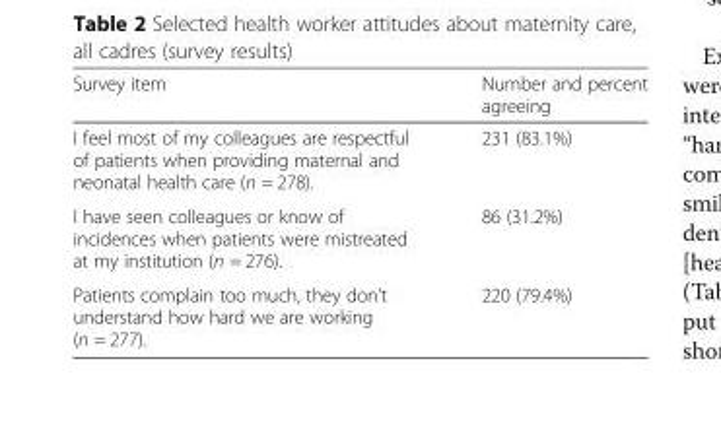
<table><thead><tr><td>Survey item</td><td>Number and percent agreeing</td></tr></thead><tbody><tr><td>I feel most of my colleagues are respectful of patients when providing maternal and neonatal health care (n = 278).</td><td>231 (83.1%)</td></tr><tr><td>I have seen colleagues or know of incidences when patients were mistreated at my institution (n = 276).</td><td>86 (31.2%)</td></tr><tr><td>Patients complain too much, they don’t understand how hard we are working (n = 277).</td><td>220 (79.4%)</td></tr></tbody></table>